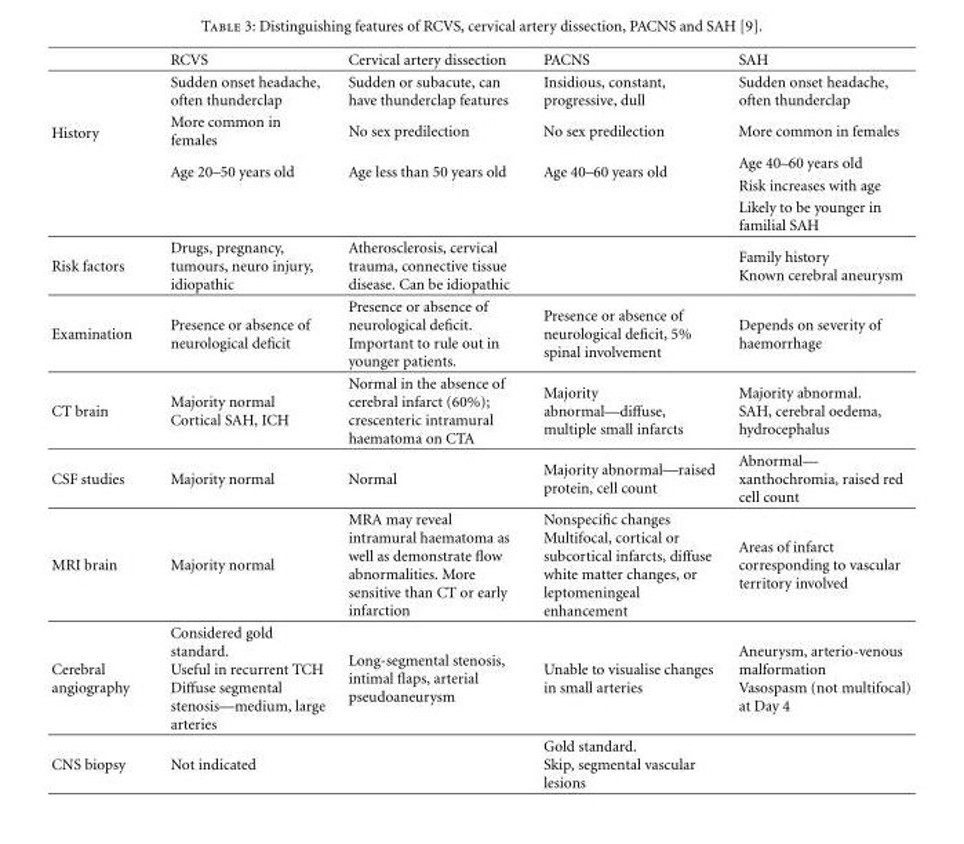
<table><thead><tr><td></td><td>RCVS</td><td>Cervical artery dissection</td><td>PACNS</td><td>SAH</td></tr></thead><tbody><tr><td rowspan="5">History</td><td>Sudden onset headache, often thunderclap</td><td>Sudden or subacute, can have thunderclap features</td><td>Insidious, constant, progressive, dull</td><td>Sudden onset headache, often thunderclap</td></tr><tr><td>More common in females</td><td>No sex predilection</td><td>No sex predilection</td><td>More common in females</td></tr><tr><td rowspan="2">Age 20–50 years old</td><td rowspan="2">Age less than 50 years old</td><td rowspan="2">Age 40–60 years old</td><td>Age 40–60 years old</td></tr><tr><td>Risk increases with age</td></tr><tr><td></td><td></td><td></td><td>Likely to be younger in familial SAH</td></tr><tr><td>Risk factors</td><td>Drugs, pregnancy, tumours, neuro injury, idiopathic</td><td>Atherosclerosis, cervical trauma, connective tissue disease. Can be idiopathic</td><td></td><td>Family history Known cerebral aneurysm</td></tr><tr><td>Examination</td><td>Presence or absence of neurological deficit</td><td>Presence or absence of neurological deficit. Important to rule out in younger patients.</td><td>Presence or absence of neurological deficit, 5% spinal involvement</td><td>Depends on severity of haemorrhage</td></tr><tr><td>CT brain</td><td>Majority normal Cortical SAH, ICH</td><td>Normal in the absence of cerebral infarct (60%); crescenteric intramural haematoma on CTA</td><td>Majority abnormal—diffuse, multiple small infarcts</td><td>Majority abnormal. SAH, cerebral oedema, hydrocephalus</td></tr><tr><td>CSF studies</td><td>Majority normal</td><td>Normal</td><td>Majority abnormal—raised protein, cell count</td><td>Abnormal— xanthochromia, raised red cell count</td></tr><tr><td>MRI brain</td><td>Majority normal</td><td>MRA may reveal intramural haematoma as well as demonstrate flow abnormalities. More sensitive than CT or early infarction</td><td>Nonspecific changes Multifocal, cortical or subcortical infarcts, diffuse white matter changes, or leptomeningeal enhancement</td><td>Areas of infarct corresponding to vascular territory involved</td></tr><tr><td>Cerebral angiography</td><td>Considered gold standard. Useful in recurrent TCH Diffuse segmental stenosis—medium, large arteries</td><td>Long-segmental stenosis, intimal flaps, arterial pseudoaneurysm</td><td>Unable to visualise changes in small arteries</td><td>Aneurysm, arterio-venous malformation Vasospasm (not multifocal) at Day 4</td></tr><tr><td>CNS biopsy</td><td>Not indicated</td><td></td><td>Gold standard. Skip, segmental vascular lesions</td><td></td></tr></tbody></table>